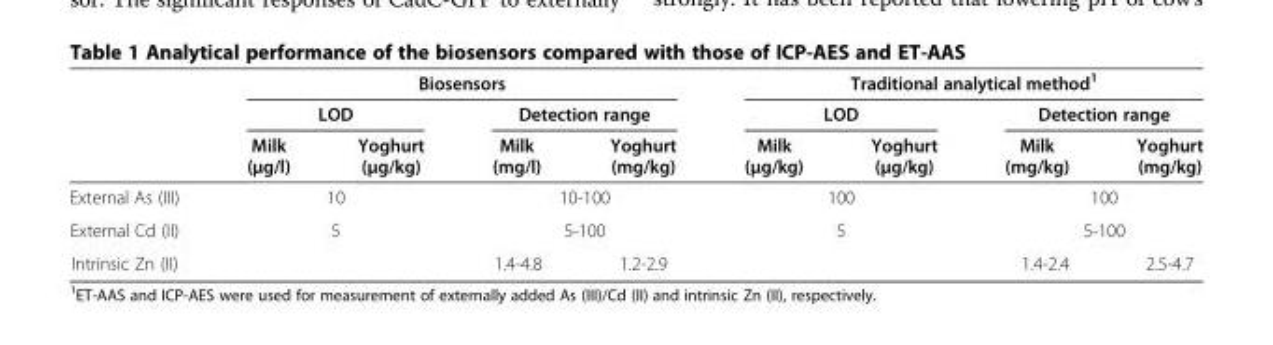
<table><thead><tr><td rowspan="3"></td><td colspan="4">Biosensors</td><td colspan="4">Traditional analytical method<sup>1</sup></td></tr><tr><td colspan="2">LOD</td><td colspan="2">Detection range</td><td colspan="2">LOD</td><td colspan="2">Detection range</td></tr><tr><td>Milk (μg/l)</td><td>Yoghurt (μg/kg)</td><td>Milk (mg/l)</td><td>Yoghurt (mg/kg)</td><td>Milk (μg/kg)</td><td>Yoghurt (μg/kg)</td><td>Milk (mg/kg)</td><td>Yoghurt (mg/kg)</td></tr></thead><tbody><tr><td>External As (III)</td><td colspan="2">10</td><td colspan="2">10-100</td><td colspan="2">100</td><td colspan="2">100</td></tr><tr><td>External Cd (II)</td><td colspan="2">5</td><td colspan="2">5-100</td><td colspan="2">5</td><td colspan="2">5-100</td></tr><tr><td>Intrinsic Zn (II)</td><td colspan="2"></td><td>1.4-4.8</td><td>1.2-2.9</td><td colspan="2"></td><td>1.4-2.4</td><td>2.5-4.7</td></tr></tbody></table>